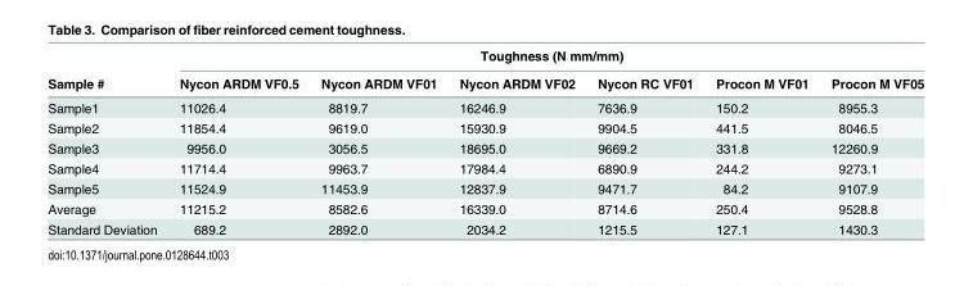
<table><thead><tr><td rowspan="2">Sample #</td><td colspan="6">Toughness (N mm/mm)</td></tr><tr><td>Nycon ARDM VF0.5</td><td>Nycon ARDM VF01</td><td>Nycon ARDM VF02</td><td>Nycon RC VF01</td><td>Procon M VF01</td><td>Procon M VF05</td></tr></thead><tbody><tr><td>Sample1</td><td>11026.4</td><td>8819.7</td><td>16246.9</td><td>7636.9</td><td>150.2</td><td>8955.3</td></tr><tr><td>Sample2</td><td>11854.4</td><td>9619.0</td><td>15930.9</td><td>9904.5</td><td>441.5</td><td>8046.5</td></tr><tr><td>Sample3</td><td>9956.0</td><td>3056.5</td><td>18695.0</td><td>9669.2</td><td>331.8</td><td>12260.9</td></tr><tr><td>Sample4</td><td>11714.4</td><td>9963.7</td><td>17984.4</td><td>6890.9</td><td>244.2</td><td>9273.1</td></tr><tr><td>Sample5</td><td>11524.9</td><td>11453.9</td><td>12837.9</td><td>9471.7</td><td>84.2</td><td>9107.9</td></tr><tr><td>Average</td><td>11215.2</td><td>8582.6</td><td>16339.0</td><td>8714.6</td><td>250.4</td><td>9528.8</td></tr><tr><td>Standard Deviation</td><td>689.2</td><td>2892.0</td><td>2034.2</td><td>1215.5</td><td>127.1</td><td>1430.3</td></tr></tbody></table>